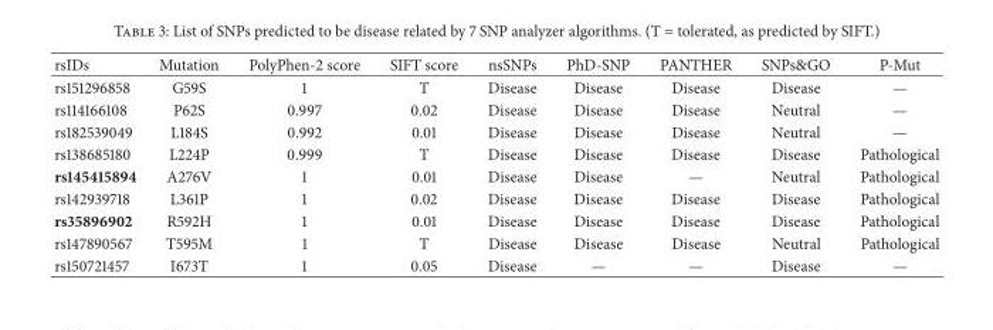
<table><thead><tr><td>rsIDs</td><td>Mutation</td><td>PolyPhen-2 score</td><td>SIFT score</td><td>nsSNPs</td><td>PhD-SNP</td><td>PANTHER</td><td>SNPs&amp;GO</td><td>P-Mut</td></tr></thead><tbody><tr><td>rs151296858</td><td>G59S</td><td>1</td><td>T</td><td>Disease</td><td>Disease</td><td>Disease</td><td>Disease</td><td>—</td></tr><tr><td>rs114166108</td><td>P62S</td><td>0.997</td><td>0.02</td><td>Disease</td><td>Disease</td><td>Disease</td><td>Neutral</td><td>—</td></tr><tr><td>rs182539049</td><td>L184S</td><td>0.992</td><td>0.01</td><td>Disease</td><td>Disease</td><td>Disease</td><td>Neutral</td><td>—</td></tr><tr><td>rs138685180</td><td>L224P</td><td>0.999</td><td>T</td><td>Disease</td><td>Disease</td><td>Disease</td><td>Disease</td><td>Pathological</td></tr><tr><td>rs145415894</td><td>A276V</td><td>1</td><td>0.01</td><td>Disease</td><td>Disease</td><td>—</td><td>Neutral</td><td>Pathological</td></tr><tr><td>rs142939718</td><td>L361P</td><td>1</td><td>0.02</td><td>Disease</td><td>Disease</td><td>Disease</td><td>Disease</td><td>Pathological</td></tr><tr><td>rs35896902</td><td>R592H</td><td>1</td><td>0.01</td><td>Disease</td><td>Disease</td><td>Disease</td><td>Disease</td><td>Pathological</td></tr><tr><td>rs147890567</td><td>T595M</td><td>1</td><td>T</td><td>Disease</td><td>Disease</td><td>Disease</td><td>Neutral</td><td>Pathological</td></tr><tr><td>rs150721457</td><td>I673T</td><td>1</td><td>0.05</td><td>Disease</td><td>—</td><td>—</td><td>Disease</td><td>—</td></tr></tbody></table>